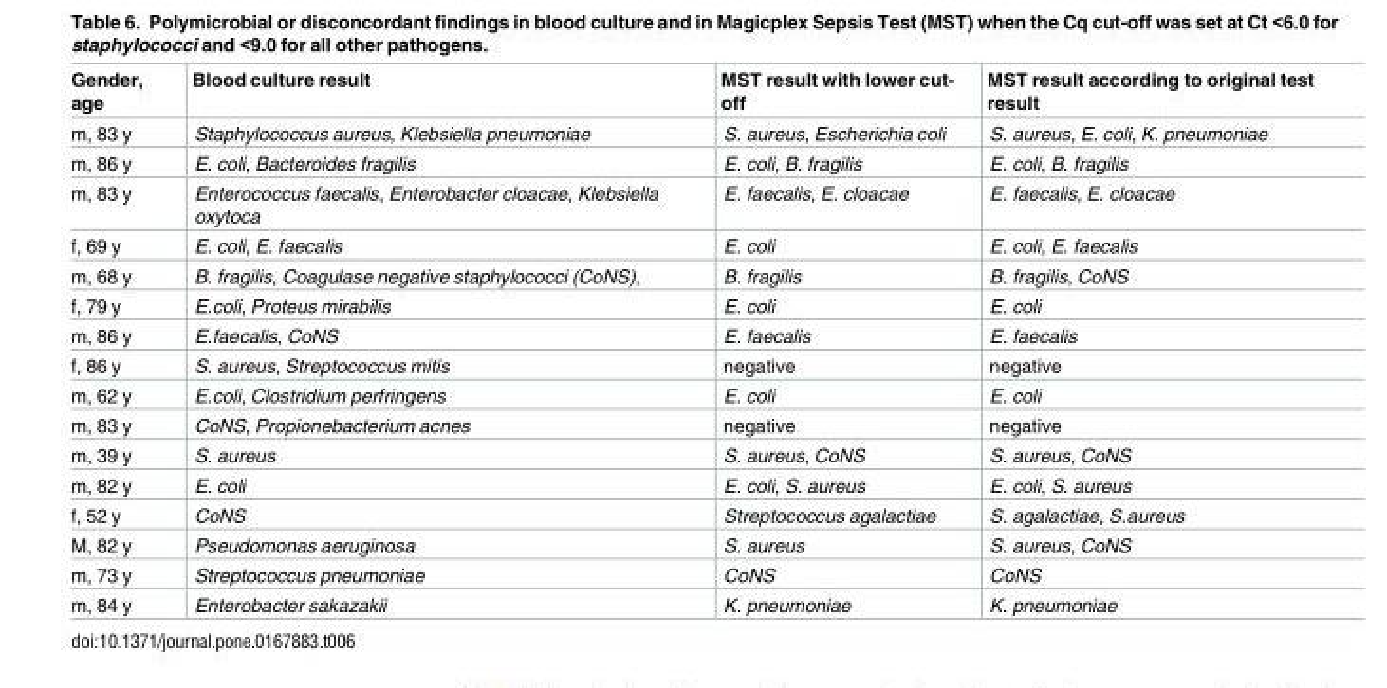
<table><thead><tr><td>Gender, age</td><td>Blood culture result</td><td>MST result with lower cut- off</td><td>MST result according to original test result</td></tr></thead><tbody><tr><td>m, 83 y</td><td>Staphylococcus aureus, Klebsiella pneumoniae</td><td>S. aureus, Escherichia coli</td><td>S. aureus, E. coli, K. pneumoniae</td></tr><tr><td>m, 86 y</td><td>E. coli, Bacteroides fragilis</td><td>E. coli, B. fragilis</td><td>E. coli, B. fragilis</td></tr><tr><td>m, 83 y</td><td>Enterococcus faecalis, Enterobacter cloacae, Klebsiella oxytoca</td><td>E. faecalis, E. cloacae</td><td>E. faecalis, E. cloacae</td></tr><tr><td>f, 69 y</td><td>E. coli, E. faecalis</td><td>E. coli</td><td>E. coli, E. faecalis</td></tr><tr><td>m, 68 y</td><td>B. fragilis, Coagulase negative staphylococci (CoNS),</td><td>B. fragilis</td><td>B. fragilis, CoNS</td></tr><tr><td>f, 79 y</td><td>E.coli, Proteus mirabilis</td><td>E. coli</td><td>E. coli</td></tr><tr><td>m, 86 y</td><td>E.faecalis, CoNS</td><td>E. faecalis</td><td>E. faecalis</td></tr><tr><td>f, 86 y</td><td>S. aureus, Streptococcus mitis</td><td>negative</td><td>negative</td></tr><tr><td>m, 62 y</td><td>E.coli, Clostridium perfringens</td><td>E. coli</td><td>E. coli</td></tr><tr><td>m, 83 y</td><td>CoNS, Propionebacterium acnes</td><td>negative</td><td>negative</td></tr><tr><td>m, 39 y</td><td>S. aureus</td><td>S. aureus, CoNS</td><td>S. aureus, CoNS</td></tr><tr><td>m, 82 y</td><td>E. coli</td><td>E. coli, S. aureus</td><td>E. coli, S. aureus</td></tr><tr><td>f, 52 y</td><td>CoNS</td><td>Streptococcus agalactiae</td><td>S. agalactiae, S.aureus</td></tr><tr><td>M, 82 y</td><td>Pseudomonas aeruginosa</td><td>S. aureus</td><td>S. aureus, CoNS</td></tr><tr><td>m, 73 y</td><td>Streptococcus pneumoniae</td><td>CoNS</td><td>CoNS</td></tr><tr><td>m, 84 y</td><td>Enterobacter sakazakii</td><td>K. pneumoniae</td><td>K. pneumoniae</td></tr></tbody></table>